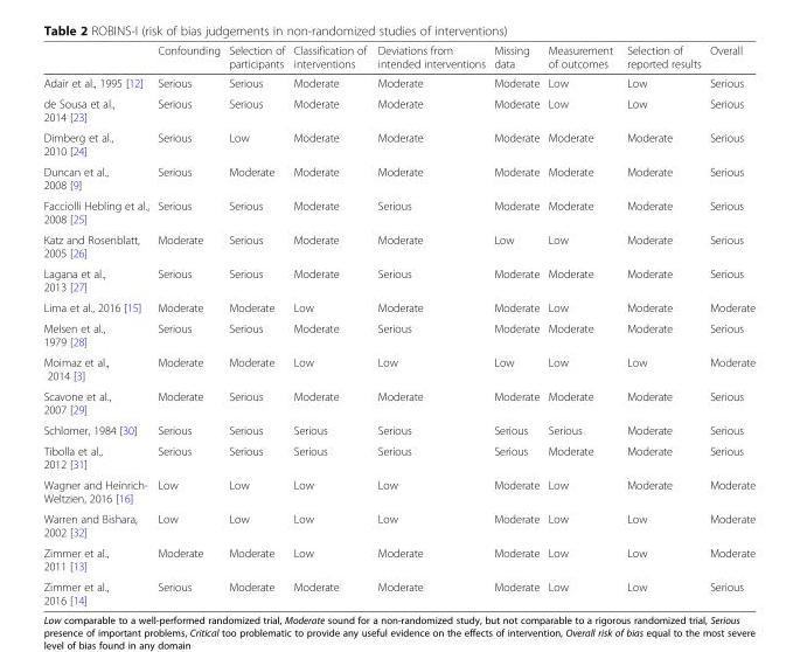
<table><thead><tr><td></td><td>Confounding</td><td>Selection of participants</td><td>Classification of interventions</td><td>Deviations from intended interventions</td><td>Missing data</td><td>Measurement of outcomes</td><td>Selection of reported results</td><td>Overall</td></tr></thead><tbody><tr><td>Adair et al., 1995 [12]</td><td>Serious</td><td>Serious</td><td>Moderate</td><td>Moderate</td><td>Moderate</td><td>Low</td><td>Low</td><td>Serious</td></tr><tr><td>de Sousa et al., 2014 [23]</td><td>Serious</td><td>Serious</td><td>Moderate</td><td>Moderate</td><td>Moderate</td><td>Low</td><td>Low</td><td>Serious</td></tr><tr><td>Dimberg et al., 2010 [24]</td><td>Serious</td><td>Low</td><td>Moderate</td><td>Moderate</td><td>Moderate</td><td>Moderate</td><td>Moderate</td><td>Serious</td></tr><tr><td>Duncan et al., 2008 [9]</td><td>Serious</td><td>Moderate</td><td>Moderate</td><td>Moderate</td><td>Moderate</td><td>Moderate</td><td>Moderate</td><td>Serious</td></tr><tr><td>Facciolli Hebling et al., 2008 [25]</td><td>Serious</td><td>Serious</td><td>Moderate</td><td>Serious</td><td>Moderate</td><td>Moderate</td><td>Moderate</td><td>Serious</td></tr><tr><td>Katz and Rosenblatt, 2005 [26]</td><td>Moderate</td><td>Serious</td><td>Moderate</td><td>Moderate</td><td>Low</td><td>Low</td><td>Moderate</td><td>Serious</td></tr><tr><td>Lagana et al., 2013 [27]</td><td>Serious</td><td>Serious</td><td>Moderate</td><td>Serious</td><td>Moderate</td><td>Moderate</td><td>Moderate</td><td>Serious</td></tr><tr><td>Lima et al., 2016 [15]</td><td>Moderate</td><td>Moderate</td><td>Low</td><td>Moderate</td><td>Moderate</td><td>Low</td><td>Moderate</td><td>Moderate</td></tr><tr><td>Melsen et al., 1979 [28]</td><td>Serious</td><td>Serious</td><td>Moderate</td><td>Serious</td><td>Moderate</td><td>Moderate</td><td>Moderate</td><td>Serious</td></tr><tr><td>Moimaz et al., 2014 [3]</td><td>Moderate</td><td>Moderate</td><td>Low</td><td>Low</td><td>Low</td><td>Low</td><td>Low</td><td>Moderate</td></tr><tr><td>Scavone et al., 2007 [29]</td><td>Moderate</td><td>Serious</td><td>Moderate</td><td>Moderate</td><td>Moderate</td><td>Moderate</td><td>Moderate</td><td>Serious</td></tr><tr><td>Schlomer, 1984 [30]</td><td>Serious</td><td>Serious</td><td>Serious</td><td>Serious</td><td>Serious</td><td>Serious</td><td>Moderate</td><td>Serious</td></tr><tr><td>Tibolla et al., 2012 [31]</td><td>Serious</td><td>Serious</td><td>Serious</td><td>Serious</td><td>Serious</td><td>Moderate</td><td>Moderate</td><td>Serious</td></tr><tr><td>Wagner and Heinrich- Weltzien, 2016 [16]</td><td>Low</td><td>Low</td><td>Low</td><td>Low</td><td>Moderate</td><td>Low</td><td>Moderate</td><td>Moderate</td></tr><tr><td>Warren and Bishara, 2002 [32]</td><td>Low</td><td>Low</td><td>Low</td><td>Low</td><td>Moderate</td><td>Low</td><td>Low</td><td>Moderate</td></tr><tr><td>Zimmer et al., 2011 [13]</td><td>Moderate</td><td>Moderate</td><td>Low</td><td>Moderate</td><td>Moderate</td><td>Low</td><td>Low</td><td>Moderate</td></tr><tr><td>Zimmer et al., 2016 [14]</td><td>Serious</td><td>Moderate</td><td>Moderate</td><td>Moderate</td><td>Moderate</td><td>Low</td><td>Low</td><td>Serious</td></tr></tbody></table>